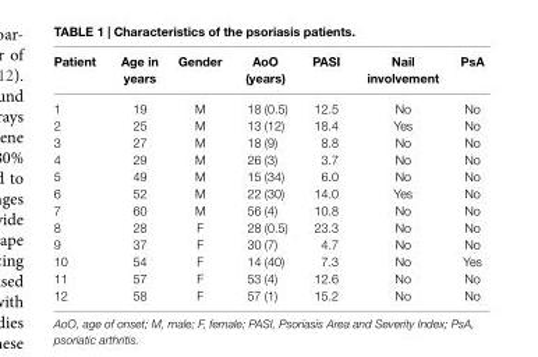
<table><thead><tr><td>Patient</td><td>age in years</td><td>gender</td><td>aoO (years)</td><td>Pasi</td><td>nail involvement</td><td>Psa</td></tr></thead><tbody><tr><td>1</td><td>19</td><td>M</td><td>18 (0.5)</td><td>12.5</td><td>No</td><td>No</td></tr><tr><td>2</td><td>25</td><td>M</td><td>13 (12)</td><td>18.4</td><td>Yes</td><td>No</td></tr><tr><td>3</td><td>27</td><td>M</td><td>18 (9)</td><td>8.8</td><td>No</td><td>No</td></tr><tr><td>4</td><td>29</td><td>M</td><td>26 (3)</td><td>3.7</td><td>No</td><td>No</td></tr><tr><td>5</td><td>49</td><td>M</td><td>15 (34)</td><td>6.0</td><td>No</td><td>No</td></tr><tr><td>6</td><td>52</td><td>M</td><td>22 (30)</td><td>14.0</td><td>Yes</td><td>No</td></tr><tr><td>7</td><td>60</td><td>M</td><td>56 (4)</td><td>10.8</td><td>No</td><td>No</td></tr><tr><td>8</td><td>28</td><td>F</td><td>28 (0.5)</td><td>23.3</td><td>No</td><td>No</td></tr><tr><td>9</td><td>37</td><td>F</td><td>30 (7)</td><td>4.7</td><td>No</td><td>No</td></tr><tr><td>10</td><td>54</td><td>F</td><td>14 (40)</td><td>7.3</td><td>No</td><td>Yes</td></tr><tr><td>11</td><td>57</td><td>F</td><td>53 (4)</td><td>12.6</td><td>No</td><td>No</td></tr><tr><td>12</td><td>58</td><td>F</td><td>57 (1)</td><td>15.2</td><td>No</td><td>No</td></tr></tbody></table>